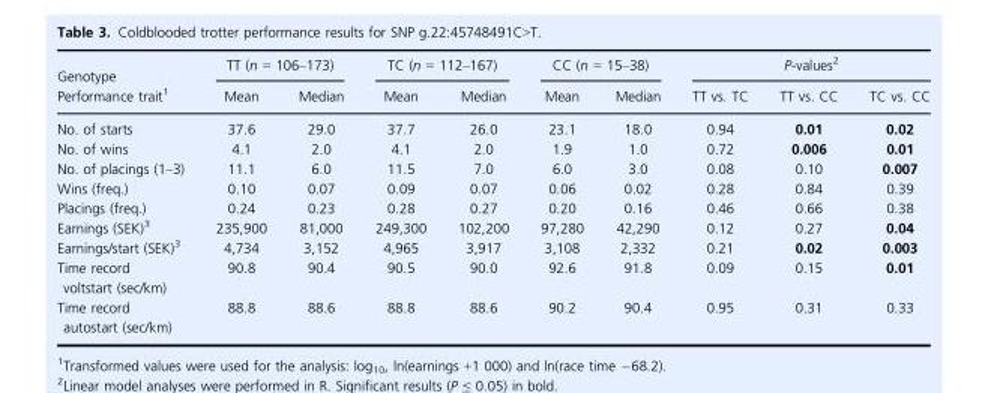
<table><thead><tr><td rowspan="2">Genotype Performance trait1</td><td colspan="2">TT (n = 106–173)</td><td colspan="2">TC (n = 112–167)</td><td colspan="2">CC (n = 15–38)</td><td colspan="3">P-values2</td></tr><tr><td>Mean</td><td>Median</td><td>Mean</td><td>Median</td><td>Mean</td><td>Median</td><td>TT vs. TC</td><td>TT vs. CC</td><td>TC vs. CC</td></tr></thead><tbody><tr><td>No. of starts</td><td>37.6</td><td>29.0</td><td>37.7</td><td>26.0</td><td>23.1</td><td>18.0</td><td>0.94</td><td>0.01</td><td>0.02</td></tr><tr><td>No. of wins</td><td>4.1</td><td>2.0</td><td>4.1</td><td>2.0</td><td>1.9</td><td>1.0</td><td>0.72</td><td>0.006</td><td>0.01</td></tr><tr><td>No. of placings (1–3)</td><td>11.1</td><td>6.0</td><td>11.5</td><td>7.0</td><td>6.0</td><td>3.0</td><td>0.08</td><td>0.10</td><td>0.007</td></tr><tr><td>Wins (freq.)</td><td>0.10</td><td>0.07</td><td>0.09</td><td>0.07</td><td>0.06</td><td>0.02</td><td>0.28</td><td>0.84</td><td>0.39</td></tr><tr><td>Placings (freq.)</td><td>0.24</td><td>0.23</td><td>0.28</td><td>0.27</td><td>0.20</td><td>0.16</td><td>0.46</td><td>0.66</td><td>0.38</td></tr><tr><td>Earnings (SEK)3</td><td>235,900</td><td>81,000</td><td>249,300</td><td>102,200</td><td>97,280</td><td>42,290</td><td>0.12</td><td>0.27</td><td>0.04</td></tr><tr><td>Earnings/start (SEK)3</td><td>4,734</td><td>3,152</td><td>4,965</td><td>3,917</td><td>3,108</td><td>2,332</td><td>0.21</td><td>0.02</td><td>0.003</td></tr><tr><td>Time record voltstart (sec/km)</td><td>90.8</td><td>90.4</td><td>90.5</td><td>90.0</td><td>92.6</td><td>91.8</td><td>0.09</td><td>0.15</td><td>0.01</td></tr><tr><td>Time record autostart (sec/km)</td><td>88.8</td><td>88.6</td><td>88.8</td><td>88.6</td><td>90.2</td><td>90.4</td><td>0.95</td><td>0.31</td><td>0.33</td></tr></tbody></table>